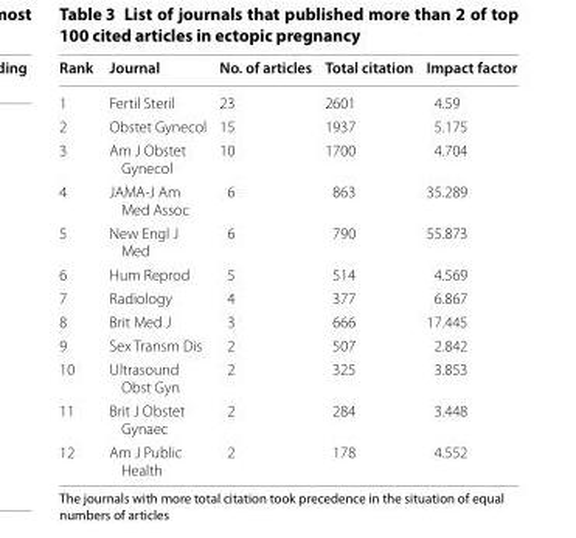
<table><thead><tr><td>Rank</td><td>Journal</td><td>No. of articles</td><td>Total citation</td><td>Impact factor</td></tr></thead><tbody><tr><td>1</td><td>Fertil Steril</td><td>23</td><td>2601</td><td>4.59</td></tr><tr><td>2</td><td>Obstet Gynecol</td><td>15</td><td>1937</td><td>5.175</td></tr><tr><td>3</td><td>Am J Obstet Gynecol</td><td>10</td><td>1700</td><td>4.704</td></tr><tr><td>4</td><td>JAMA‑J Am Med Assoc</td><td>6</td><td>863</td><td>35.289</td></tr><tr><td>5</td><td>New Engl J Med</td><td>6</td><td>790</td><td>55.873</td></tr><tr><td>6</td><td>Hum Reprod</td><td>5</td><td>514</td><td>4.569</td></tr><tr><td>7</td><td>Radiology</td><td>4</td><td>377</td><td>6.867</td></tr><tr><td>8</td><td>Brit Med J</td><td>3</td><td>666</td><td>17.445</td></tr><tr><td>9</td><td>Sex Transm Dis</td><td>2</td><td>507</td><td>2.842</td></tr><tr><td>10</td><td>Ultrasound Obst Gyn</td><td>2</td><td>325</td><td>3.853</td></tr><tr><td>11</td><td>Brit J Obstet Gynaec</td><td>2</td><td>284</td><td>3.448</td></tr><tr><td>12</td><td>Am J Public Health</td><td>2</td><td>178</td><td>4.552</td></tr></tbody></table>